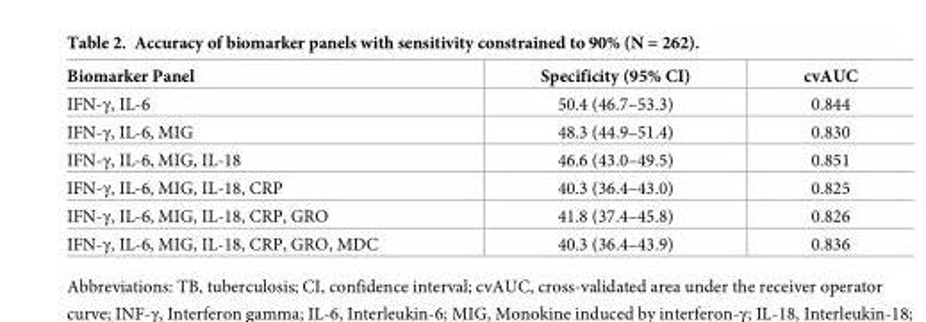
<table><thead><tr><td>Biomarker Panel</td><td>Specificity (95% CI)</td><td>cvAUC</td></tr></thead><tbody><tr><td>IFN-γ, IL-6</td><td>50.4 (46.7–53.3)</td><td>0.844</td></tr><tr><td>IFN-γ, IL-6, MIG</td><td>48.3 (44.9–51.4)</td><td>0.830</td></tr><tr><td>IFN-γ, IL-6, MIG, IL-18</td><td>46.6 (43.0–49.5)</td><td>0.851</td></tr><tr><td>IFN-γ, IL-6, MIG, IL-18, CRP</td><td>40.3 (36.4–43.0)</td><td>0.825</td></tr><tr><td>IFN-γ, IL-6, MIG, IL-18, CRP, GRO</td><td>41.8 (37.4–45.8)</td><td>0.826</td></tr><tr><td>IFN-γ, IL-6, MIG, IL-18, CRP, GRO, MDC</td><td>40.3 (36.4–43.9)</td><td>0.836</td></tr></tbody></table>